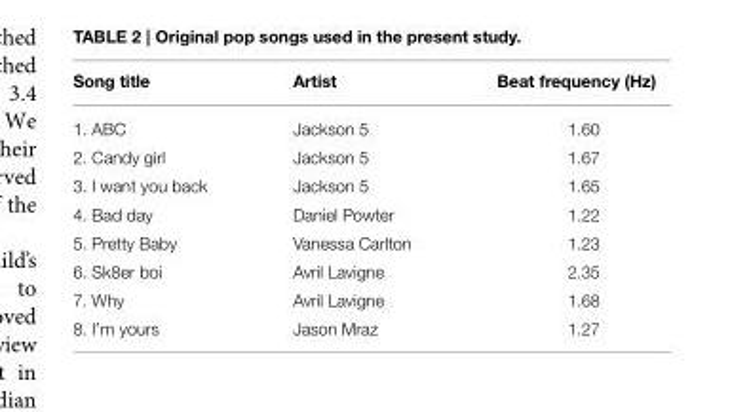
<table><thead><tr><td>Song title</td><td>Artist</td><td>Beat frequency (Hz)</td></tr></thead><tbody><tr><td>1. ABC</td><td>Jackson 5</td><td>1.60</td></tr><tr><td>2. Candy girl</td><td>Jackson 5</td><td>1.67</td></tr><tr><td>3. I want you back</td><td>Jackson 5</td><td>1.65</td></tr><tr><td>4. Bad day</td><td>Daniel Powter</td><td>1.22</td></tr><tr><td>5. Pretty Baby</td><td>Vanessa Carlton</td><td>1.23</td></tr><tr><td>6. Sk8er boi</td><td>Avril Lavigne</td><td>2.35</td></tr><tr><td>7. Why</td><td>Avril Lavigne</td><td>1.68</td></tr><tr><td>8. I’m yours</td><td>Jason Mraz</td><td>1.27</td></tr></tbody></table>